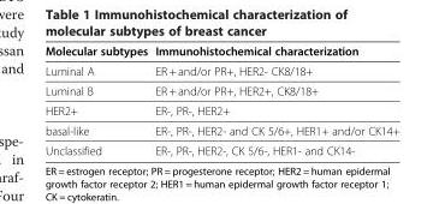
<table><thead><tr><td>Molecular subtypes</td><td>Immunohistochemical characterization</td></tr></thead><tbody><tr><td>Luminal A</td><td>ER + and/or PR+, HER2- CK8/18+</td></tr><tr><td>Luminal B</td><td>ER + and/or PR+, HER2+, CK8/18+</td></tr><tr><td>HER2+</td><td>ER-, PR-, HER2+</td></tr><tr><td>basal-like</td><td>ER-, PR-, HER2- and CK 5/6+, HER1+ and/or CK14+</td></tr><tr><td>Unclassified</td><td>ER-, PR-, HER2-, CK 5/6-, HER1- and CK14-</td></tr></tbody></table>